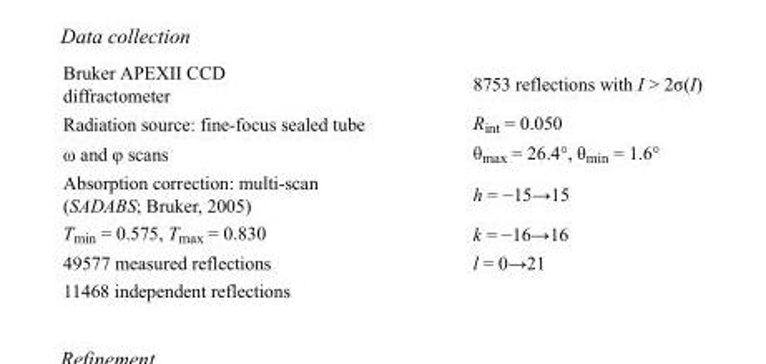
<table><tbody><tr><td>Bruker APEXII CCD diffractometer</td><td>8753 reflections with I &gt; 2σ(I)</td></tr><tr><td>Radiation source: fine-focus sealed tube</td><td>R<sub>int</sub> = 0.050</td></tr><tr><td>ω and φ scans</td><td>θ<sub>max</sub> = 26.4°, θ<sub>min</sub> = 1.6°</td></tr><tr><td>Absorption correction: multi-scan (SADABS; Bruker, 2005)</td><td>h = −15→15</td></tr><tr><td>T<sub>min</sub> = 0.575, T<sub>max</sub> = 0.830</td><td>k = −16→16</td></tr><tr><td>49577 measured reflections</td><td>l = 0→21</td></tr><tr><td>11468 independent reflections</td><td></td></tr></tbody></table>